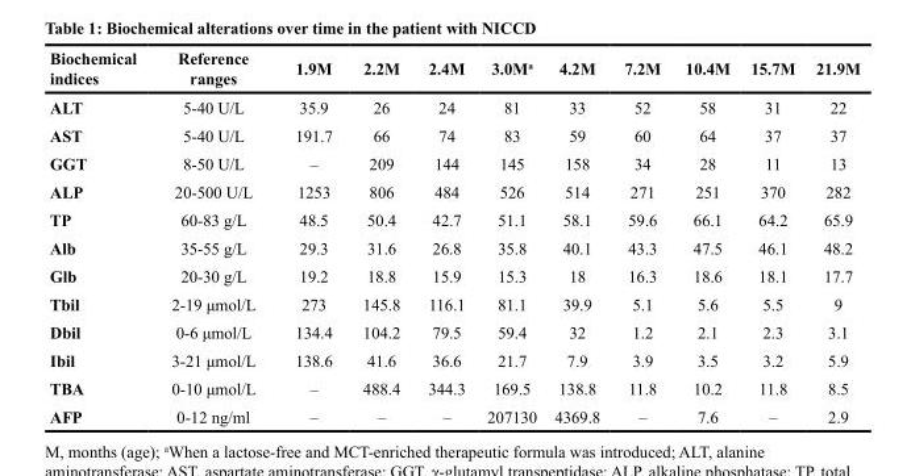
<table><thead><tr><td>Biochemical indices</td><td>Reference ranges</td><td>1.9M</td><td>2.2M</td><td>2.4M</td><td>3.0M<sup>a</sup></td><td>4.2M</td><td>7.2M</td><td>10.4M</td><td>15.7M</td><td>21.9M</td></tr></thead><tbody><tr><td>ALT</td><td>5-40 U/L</td><td>35.9</td><td>26</td><td>24</td><td>81</td><td>33</td><td>52</td><td>58</td><td>31</td><td>22</td></tr><tr><td>AST</td><td>5-40 U/L</td><td>191.7</td><td>66</td><td>74</td><td>83</td><td>59</td><td>60</td><td>64</td><td>37</td><td>37</td></tr><tr><td>GGT</td><td>8-50 U/L</td><td>–</td><td>209</td><td>144</td><td>145</td><td>158</td><td>34</td><td>28</td><td>11</td><td>13</td></tr><tr><td>ALP</td><td>20-500 U/L</td><td>1253</td><td>806</td><td>484</td><td>526</td><td>514</td><td>271</td><td>251</td><td>370</td><td>282</td></tr><tr><td>TP</td><td>60-83 g/L</td><td>48.5</td><td>50.4</td><td>42.7</td><td>51.1</td><td>58.1</td><td>59.6</td><td>66.1</td><td>64.2</td><td>65.9</td></tr><tr><td>Alb</td><td>35-55 g/L</td><td>29.3</td><td>31.6</td><td>26.8</td><td>35.8</td><td>40.1</td><td>43.3</td><td>47.5</td><td>46.1</td><td>48.2</td></tr><tr><td>Glb</td><td>20-30 g/L</td><td>19.2</td><td>18.8</td><td>15.9</td><td>15.3</td><td>18</td><td>16.3</td><td>18.6</td><td>18.1</td><td>17.7</td></tr><tr><td>Tbil</td><td>2-19 μmol/L</td><td>273</td><td>145.8</td><td>116.1</td><td>81.1</td><td>39.9</td><td>5.1</td><td>5.6</td><td>5.5</td><td>9</td></tr><tr><td>Dbil</td><td>0-6 μmol/L</td><td>134.4</td><td>104.2</td><td>79.5</td><td>59.4</td><td>32</td><td>1.2</td><td>2.1</td><td>2.3</td><td>3.1</td></tr><tr><td>Ibil</td><td>3-21 μmol/L</td><td>138.6</td><td>41.6</td><td>36.6</td><td>21.7</td><td>7.9</td><td>3.9</td><td>3.5</td><td>3.2</td><td>5.9</td></tr><tr><td>TBA</td><td>0-10 μmol/L</td><td>–</td><td>488.4</td><td>344.3</td><td>169.5</td><td>138.8</td><td>11.8</td><td>10.2</td><td>11.8</td><td>8.5</td></tr><tr><td>AFP</td><td>0-12 ng/ml</td><td>–</td><td>–</td><td>–</td><td>207130</td><td>4369.8</td><td>–</td><td>7.6</td><td>–</td><td>2.9</td></tr></tbody></table>